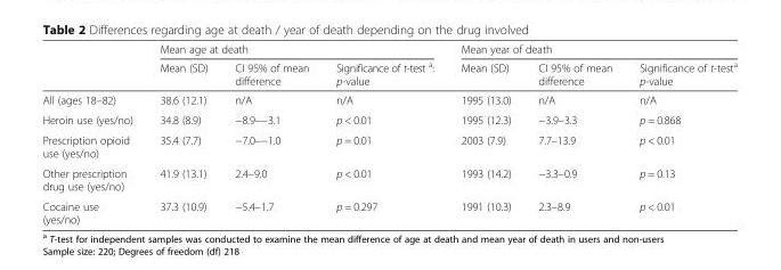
<table><thead><tr><td rowspan="2"></td><td colspan="3">Mean age at death</td><td colspan="3">Mean year of death</td></tr><tr><td>Mean (SD)</td><td>CI 95% of mean difference</td><td>Significance of t-test <sup>a</sup>: p-value</td><td>Mean (SD)</td><td>CI 95% of mean difference</td><td>Significance of t-test<sup>a</sup> p-value</td></tr></thead><tbody><tr><td>All (ages 18–82)</td><td>38.6 (12.1)</td><td>n/A</td><td>n/A</td><td>1995 (13.0)</td><td>n/A</td><td>n/A</td></tr><tr><td>Heroin use (yes/no)</td><td>34.8 (8.9)</td><td>−8.9–−3.1</td><td>p &lt; 0.01</td><td>1995 (12.3)</td><td>−3.9–3.3</td><td>p = 0.868</td></tr><tr><td>Prescription opioid use (yes/no)</td><td>35.4 (7.7)</td><td>−7.0–−1.0</td><td>p = 0.01</td><td>2003 (7.9)</td><td>7.7–13.9</td><td>p &lt; 0.01</td></tr><tr><td>Other prescription drug use (yes/no)</td><td>41.9 (13.1)</td><td>2.4–9.0</td><td>p &lt; 0.01</td><td>1993 (14.2)</td><td>−3.3–0.9</td><td>p = 0.13</td></tr><tr><td>Cocaine use (yes/no)</td><td>37.3 (10.9)</td><td>−5.4–1.7</td><td>p = 0.297</td><td>1991 (10.3)</td><td>2.3–8.9</td><td>p &lt; 0.01</td></tr></tbody></table>